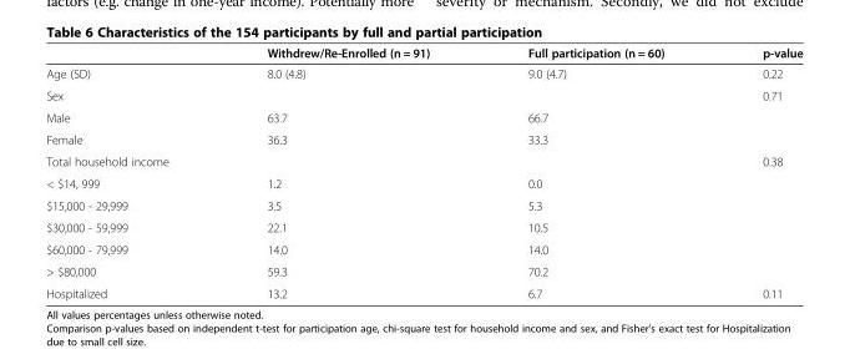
<table><thead><tr><td></td><td>Withdrew/Re-Enrolled (n = 91)</td><td>Full participation (n = 60)</td><td>p-value</td></tr></thead><tbody><tr><td>Age (SD)</td><td>8.0 (4.8)</td><td>9.0 (4.7)</td><td>0.22</td></tr><tr><td>Sex</td><td></td><td></td><td>0.71</td></tr><tr><td>Male</td><td>63.7</td><td>66.7</td><td></td></tr><tr><td>Female</td><td>36.3</td><td>33.3</td><td></td></tr><tr><td>Total household income</td><td></td><td></td><td>0.38</td></tr><tr><td>&lt; $14, 999</td><td>1.2</td><td>0.0</td><td></td></tr><tr><td>$15,000 - 29,999</td><td>3.5</td><td>5.3</td><td></td></tr><tr><td>$30,000 - 59,999</td><td>22.1</td><td>10.5</td><td></td></tr><tr><td>$60,000 - 79,999</td><td>14.0</td><td>14.0</td><td></td></tr><tr><td>&gt; $80,000</td><td>59.3</td><td>70.2</td><td></td></tr><tr><td>Hospitalized</td><td>13.2</td><td>6.7</td><td>0.11</td></tr></tbody></table>